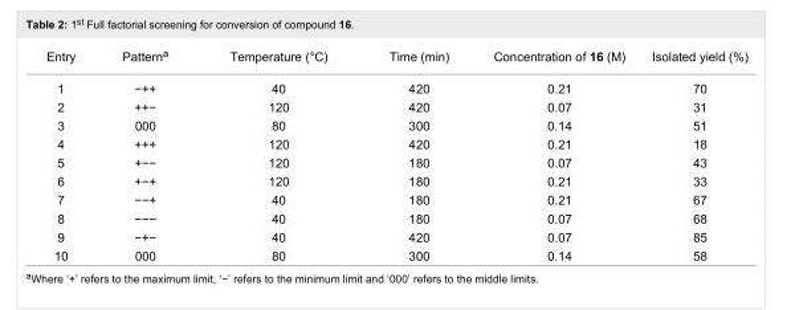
<table><tbody><tr><td>Entry</td><td>Pattern<sup>a</sup></td><td>Temperature (°C)</td><td>Time (min)</td><td>Concentration of 16 (M)</td><td>Isolated yield (%)</td></tr><tr><td>1</td><td>−++</td><td>40</td><td>420</td><td>0.21</td><td>70</td></tr><tr><td>2</td><td>++−</td><td>120</td><td>420</td><td>0.07</td><td>31</td></tr><tr><td>3</td><td>000</td><td>80</td><td>300</td><td>0.14</td><td>51</td></tr><tr><td>4</td><td>+++</td><td>120</td><td>420</td><td>0.21</td><td>18</td></tr><tr><td>5</td><td>+−−</td><td>120</td><td>180</td><td>0.07</td><td>43</td></tr><tr><td>6</td><td>+−+</td><td>120</td><td>180</td><td>0.21</td><td>33</td></tr><tr><td>7</td><td>−−+</td><td>40</td><td>180</td><td>0.21</td><td>67</td></tr><tr><td>8</td><td>−−−</td><td>40</td><td>180</td><td>0.07</td><td>68</td></tr><tr><td>9</td><td>−+−</td><td>40</td><td>420</td><td>0.07</td><td>85</td></tr><tr><td>10</td><td>000</td><td>80</td><td>300</td><td>0.14</td><td>58</td></tr></tbody></table>